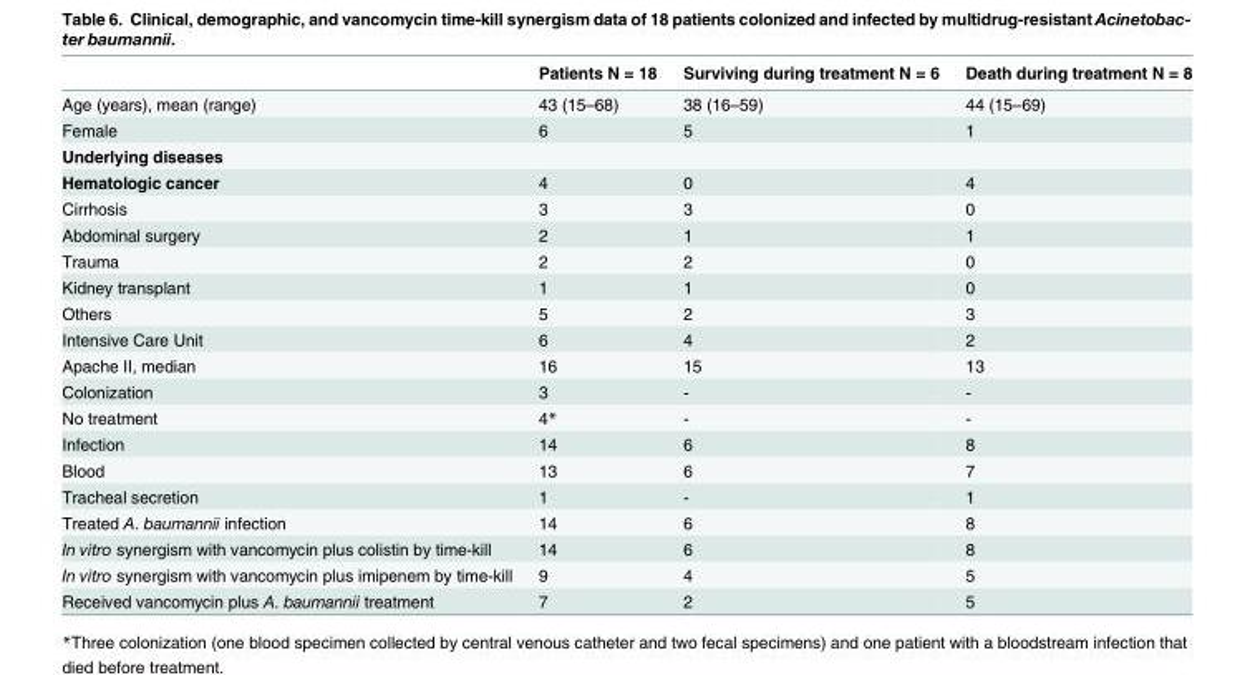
<table><thead><tr><td></td><td>Patients N = 18</td><td>Surviving during treatment N = 6</td><td>Death during treatment N = 8</td></tr></thead><tbody><tr><td>Age (years), mean (range)</td><td>43 (15–68)</td><td>38 (16–59)</td><td>44 (15–69)</td></tr><tr><td>Female</td><td>6</td><td>5</td><td>1</td></tr><tr><td colspan="4">Underlying diseases</td></tr><tr><td>Hematologic cancer</td><td>4</td><td>0</td><td>4</td></tr><tr><td>Cirrhosis</td><td>3</td><td>3</td><td>0</td></tr><tr><td>Abdominal surgery</td><td>2</td><td>1</td><td>1</td></tr><tr><td>Trauma</td><td>2</td><td>2</td><td>0</td></tr><tr><td>Kidney transplant</td><td>1</td><td>1</td><td>0</td></tr><tr><td>Others</td><td>5</td><td>2</td><td>3</td></tr><tr><td>Intensive Care Unit</td><td>6</td><td>4</td><td>2</td></tr><tr><td>Apache II, median</td><td>16</td><td>15</td><td>13</td></tr><tr><td>Colonization</td><td>3</td><td>-</td><td>-</td></tr><tr><td>No treatment</td><td>4*</td><td>-</td><td>-</td></tr><tr><td>Infection</td><td>14</td><td>6</td><td>8</td></tr><tr><td>Blood</td><td>13</td><td>6</td><td>7</td></tr><tr><td>Tracheal secretion</td><td>1</td><td>-</td><td>1</td></tr><tr><td>Treated A. baumannii infection</td><td>14</td><td>6</td><td>8</td></tr><tr><td>In vitro synergism with vancomycin plus colistin by time-kill</td><td>14</td><td>6</td><td>8</td></tr><tr><td>In vitro synergism with vancomycin plus imipenem by time-kill</td><td>9</td><td>4</td><td>5</td></tr><tr><td>Received vancomycin plus A. baumannii treatment</td><td>7</td><td>2</td><td>5</td></tr></tbody></table>